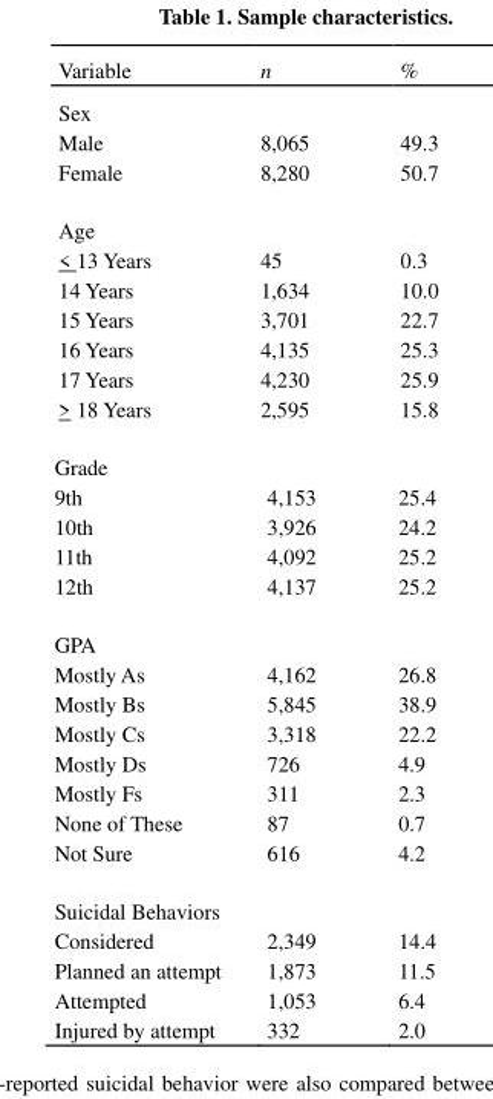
<table><thead><tr><td>Variable</td><td>n</td><td>%</td></tr></thead><tbody><tr><td colspan="3">Sex</td></tr><tr><td>Male</td><td>8,065</td><td>49.3</td></tr><tr><td>Female</td><td>8,280</td><td>50.7</td></tr><tr><td colspan="3">Age</td></tr><tr><td>&lt; 13 Years</td><td>45</td><td>0.3</td></tr><tr><td>14 Years</td><td>1,634</td><td>10.0</td></tr><tr><td>15 Years</td><td>3,701</td><td>22.7</td></tr><tr><td>16 Years</td><td>4,135</td><td>25.3</td></tr><tr><td>17 Years</td><td>4,230</td><td>25.9</td></tr><tr><td>&gt; 18 Years</td><td>2,595</td><td>15.8</td></tr><tr><td colspan="3">Grade</td></tr><tr><td>9th</td><td>4,153</td><td>25.4</td></tr><tr><td>10th</td><td>3,926</td><td>24.2</td></tr><tr><td>11th</td><td>4,092</td><td>25.2</td></tr><tr><td>12th</td><td>4,137</td><td>25.2</td></tr><tr><td colspan="3">GPA</td></tr><tr><td>Mostly As</td><td>4,162</td><td>26.8</td></tr><tr><td>Mostly Bs</td><td>5,845</td><td>38.9</td></tr><tr><td>Mostly Cs</td><td>3,318</td><td>22.2</td></tr><tr><td>Mostly Ds</td><td>726</td><td>4.9</td></tr><tr><td>Mostly Fs</td><td>311</td><td>2.3</td></tr><tr><td>None of These</td><td>87</td><td>0.7</td></tr><tr><td>Not Sure</td><td>616</td><td>4.2</td></tr><tr><td colspan="3">Suicidal Behaviors</td></tr><tr><td>Considered</td><td>2,349</td><td>14.4</td></tr><tr><td>Planned an attempt</td><td>1,873</td><td>11.5</td></tr><tr><td>Attempted</td><td>1,053</td><td>6.4</td></tr><tr><td>Injured by attempt</td><td>332</td><td>2.0</td></tr></tbody></table>